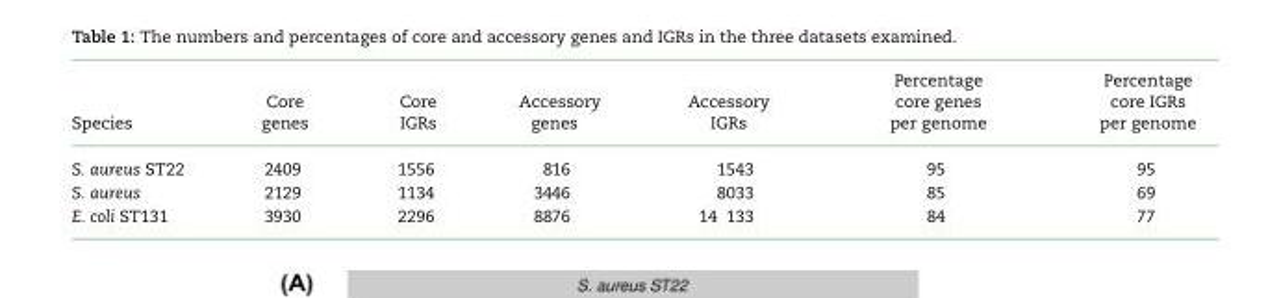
<table><thead><tr><td>Species</td><td>Core genes</td><td>Core IGRs</td><td>Accessory genes</td><td>Accessory IGRs</td><td>Percentage core genes per genome</td><td>Percentage core IGRs per genome</td></tr></thead><tbody><tr><td>S. aureus ST22</td><td>2409</td><td>1556</td><td>816</td><td>1543</td><td>95</td><td>95</td></tr><tr><td>S. aureus</td><td>2129</td><td>1134</td><td>3446</td><td>8033</td><td>85</td><td>69</td></tr><tr><td>E. coli ST131</td><td>3930</td><td>2296</td><td>8876</td><td>14 133</td><td>84</td><td>77</td></tr></tbody></table>